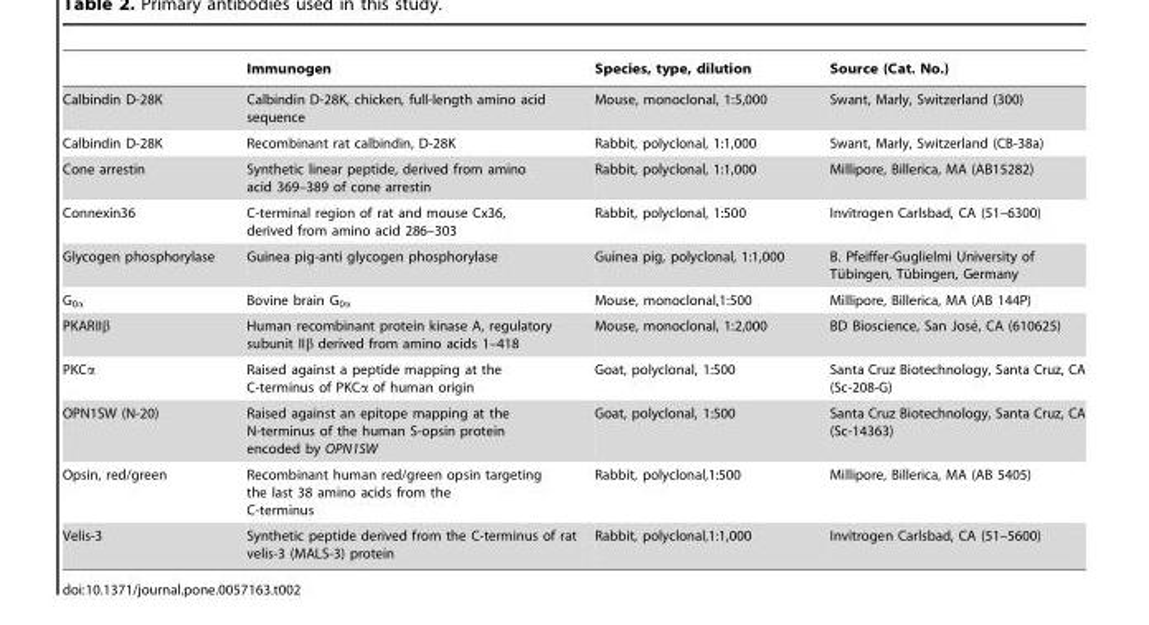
<table><thead><tr><td></td><td>Immunogen</td><td>Species, type, dilution</td><td>Source (Cat. No.)</td></tr></thead><tbody><tr><td>Calbindin D-28K</td><td>Calbindin D-28K, chicken, full-length amino acid sequence</td><td>Mouse, monoclonal, 1:5,000</td><td>Swant, Marly, Switzerland (300)</td></tr><tr><td>Calbindin D-28K</td><td>Recombinant rat calbindin, D-28K</td><td>Rabbit, polyclonal, 1:1,000</td><td>Swant, Marly, Switzerland (CB-38a)</td></tr><tr><td>Cone arrestin</td><td>Synthetic linear peptide, derived from amino acid 369–389 of cone arrestin</td><td>Rabbit, polyclonal, 1:1,000</td><td>Millipore, Billerica, MA (AB15282)</td></tr><tr><td>Connexin36</td><td>C-terminal region of rat and mouse Cx36, derived from amino acid 286–303</td><td>Rabbit, polyclonal, 1:500</td><td>Invitrogen Carlsbad, CA (51–6300)</td></tr><tr><td>Glycogen phosphorylase</td><td>Guinea pig-anti glycogen phosphorylase</td><td>Guinea pig, polyclonal, 1:1,000</td><td>B. Pfeiffer-Guglielmi University of Tu¨bingen, Tu¨bingen, Germany</td></tr><tr><td>G<sub>0α</sub></td><td>Bovine brain G<sub>0α</sub></td><td>Mouse, monoclonal,1:500</td><td>Millipore, Billerica, MA (AB 144P)</td></tr><tr><td>PKARIIβ</td><td>Human recombinant protein kinase A, regulatory subunit IIβ derived from amino acids 1–418</td><td>Mouse, monoclonal, 1:2,000</td><td>BD Bioscience, San Jose´, CA (610625)</td></tr><tr><td>PKCα</td><td>Raised against a peptide mapping at the C-terminus of PKCα of human origin</td><td>Goat, polyclonal, 1:500</td><td>Santa Cruz Biotechnology, Santa Cruz, CA (Sc-208-G)</td></tr><tr><td>OPN1SW (N-20)</td><td>Raised against an epitope mapping at the N-terminus of the human S-opsin protein encoded by OPN1SW</td><td>Goat, polyclonal, 1:500</td><td>Santa Cruz Biotechnology, Santa Cruz, CA (Sc-14363)</td></tr><tr><td>Opsin, red/green</td><td>Recombinant human red/green opsin targeting the last 38 amino acids from the C-terminus</td><td>Rabbit, polyclonal,1:500</td><td>Millipore, Billerica, MA (AB 5405)</td></tr><tr><td>Velis-3</td><td>Synthetic peptide derived from the C-terminus of rat velis-3 (MALS-3) protein</td><td>Rabbit, polyclonal,1:1,000</td><td>Invitrogen Carlsbad, CA (51–5600)</td></tr></tbody></table>